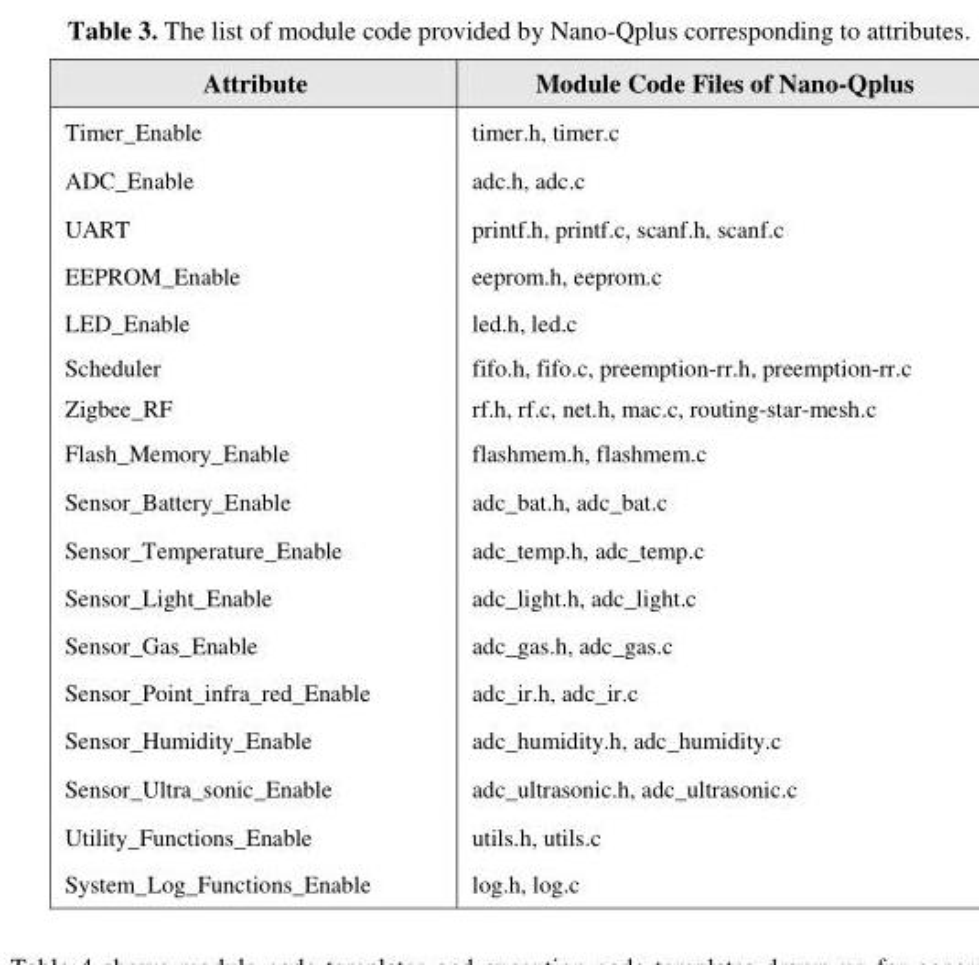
<table><thead><tr><td>Attribute</td><td>Module Code Files of Nano-Qplus</td></tr></thead><tbody><tr><td>Timer_Enable</td><td>timer.h, timer.c</td></tr><tr><td>ADC_Enable</td><td>adc.h, adc.c</td></tr><tr><td>UART</td><td>printf.h, printf.c, scanf.h, scanf.c</td></tr><tr><td>EEPROM_Enable</td><td>eeprom.h, eeprom.c</td></tr><tr><td>LED_Enable</td><td>led.h, led.c</td></tr><tr><td>Scheduler</td><td>fifo.h, fifo.c, preemption-rr.h, preemption-rr.c</td></tr><tr><td>Zigbee_RF</td><td>rf.h, rf.c, net.h, mac.c, routing-star-mesh.c</td></tr><tr><td>Flash_Memory_Enable</td><td>flashmem.h, flashmem.c</td></tr><tr><td>Sensor_Battery_Enable</td><td>adc_bat.h, adc_bat.c</td></tr><tr><td>Sensor_Temperature_Enable</td><td>adc_temp.h, adc_temp.c</td></tr><tr><td>Sensor_Light_Enable</td><td>adc_light.h, adc_light.c</td></tr><tr><td>Sensor_Gas_Enable</td><td>adc_gas.h, adc_gas.c</td></tr><tr><td>Sensor_Point_infra_red_Enable</td><td>adc_ir.h, adc_ir.c</td></tr><tr><td>Sensor_Humidity_Enable</td><td>adc_humidity.h, adc_humidity.c</td></tr><tr><td>Sensor_Ultra_sonic_Enable</td><td>adc_ultrasonic.h, adc_ultrasonic.c</td></tr><tr><td>Utility_Functions_Enable</td><td>utils.h, utils.c</td></tr><tr><td>System_Log_Functions_Enable</td><td>log.h, log.c</td></tr></tbody></table>